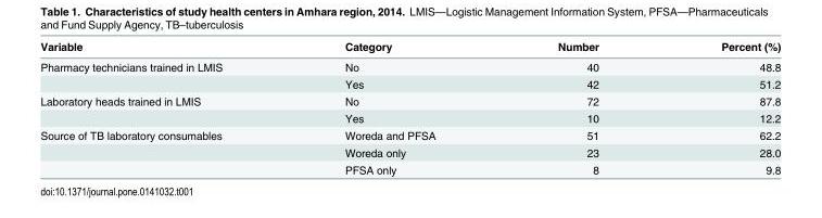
<table><thead><tr><td>Variable</td><td>Category</td><td>Number</td><td>Percent (%)</td></tr></thead><tbody><tr><td rowspan="2">Pharmacy technicians trained in LMIS</td><td>No</td><td>40</td><td>48.8</td></tr><tr><td>Yes</td><td>42</td><td>51.2</td></tr><tr><td rowspan="2">Laboratory heads trained in LMIS</td><td>No</td><td>72</td><td>87.8</td></tr><tr><td>Yes</td><td>10</td><td>12.2</td></tr><tr><td rowspan="3">Source of TB laboratory consumables</td><td>Woreda and PFSA</td><td>51</td><td>62.2</td></tr><tr><td>Woreda only</td><td>23</td><td>28.0</td></tr><tr><td>PFSA only</td><td>8</td><td>9.8</td></tr></tbody></table>